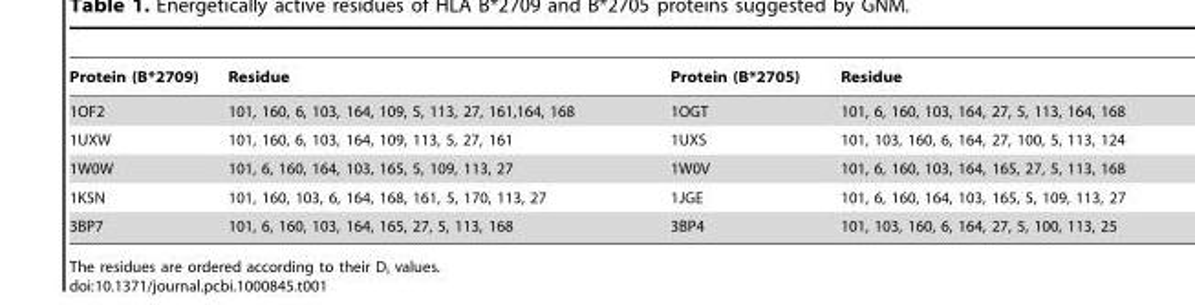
<table><thead><tr><td>Protein (B*2709)</td><td>Residue</td><td>Protein (B*2705)</td><td>Residue</td></tr></thead><tbody><tr><td>1OF2</td><td>101, 160, 6, 103, 164, 109, 5, 113, 27, 161,164, 168</td><td>1OGT</td><td>101, 6, 160, 103, 164, 27, 5, 113, 164, 168</td></tr><tr><td>1UXW</td><td>101, 160, 6, 103, 164, 109, 113, 5, 27, 161</td><td>1UXS</td><td>101, 103, 160, 6, 164, 27, 100, 5, 113, 124</td></tr><tr><td>1W0W</td><td>101, 6, 160, 164, 103, 165, 5, 109, 113, 27</td><td>1W0V</td><td>101, 6, 160, 103, 164, 165, 27, 5, 113, 168</td></tr><tr><td>1K5N</td><td>101, 160, 103, 6, 164, 168, 161, 5, 170, 113, 27</td><td>1JGE</td><td>101, 6, 160, 164, 103, 165, 5, 109, 113, 27</td></tr><tr><td>3BP7</td><td>101, 6, 160, 103, 164, 165, 27, 5, 113, 168</td><td>3BP4</td><td>101, 103, 160, 6, 164, 27, 5, 100, 113, 25</td></tr></tbody></table>